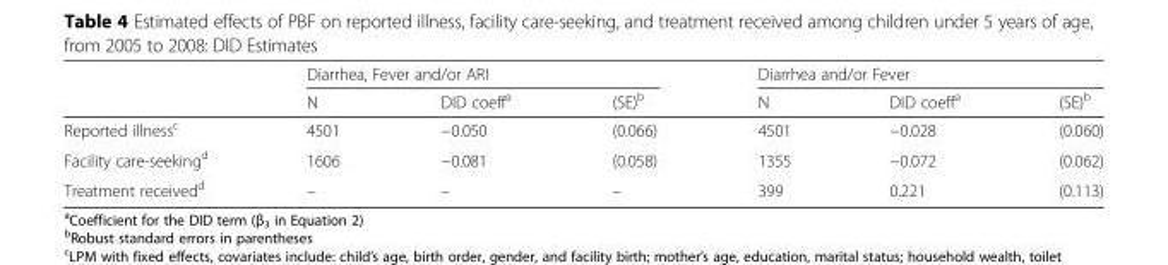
<table><thead><tr><td rowspan="2"></td><td colspan="3">Diarrhea, Fever and/or ARI</td><td colspan="3">Diarrhea and/or Fever</td></tr><tr><td>N</td><td>DID coeff<sup>a</sup></td><td>(SE)<sup>b</sup></td><td>N</td><td>DID coeff<sup>a</sup></td><td>(SE)<sup>b</sup></td></tr></thead><tbody><tr><td>Reported illness<sup>c</sup></td><td>4501</td><td>−0.050</td><td>(0.066)</td><td>4501</td><td>−0.028</td><td>(0.060)</td></tr><tr><td>Facility care-seeking<sup>d</sup></td><td>1606</td><td>−0.081</td><td>(0.058)</td><td>1355</td><td>−0.072</td><td>(0.062)</td></tr><tr><td>Treatment received<sup>d</sup></td><td>–</td><td>–</td><td>–</td><td>399</td><td>0.221</td><td>(0.113)</td></tr></tbody></table>